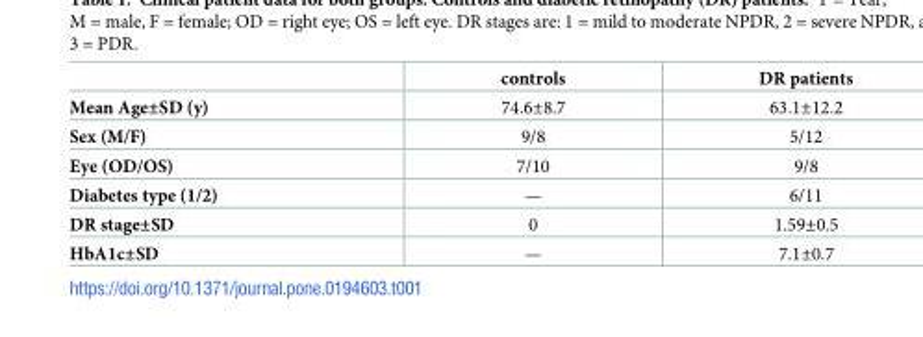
<table><thead><tr><td></td><td>controls</td><td>DR patients</td></tr></thead><tbody><tr><td>Mean Age±SD (y)</td><td>74.6±8.7</td><td>63.1±12.2</td></tr><tr><td>Sex (M/F)</td><td>9/8</td><td>5/12</td></tr><tr><td>Eye (OD/OS)</td><td>7/10</td><td>9/8</td></tr><tr><td>Diabetes type (1/2)</td><td>—</td><td>6/11</td></tr><tr><td>DR stage±SD</td><td>0</td><td>1.59±0.5</td></tr><tr><td>HbA1c±SD</td><td>—</td><td>7.1±0.7</td></tr></tbody></table>